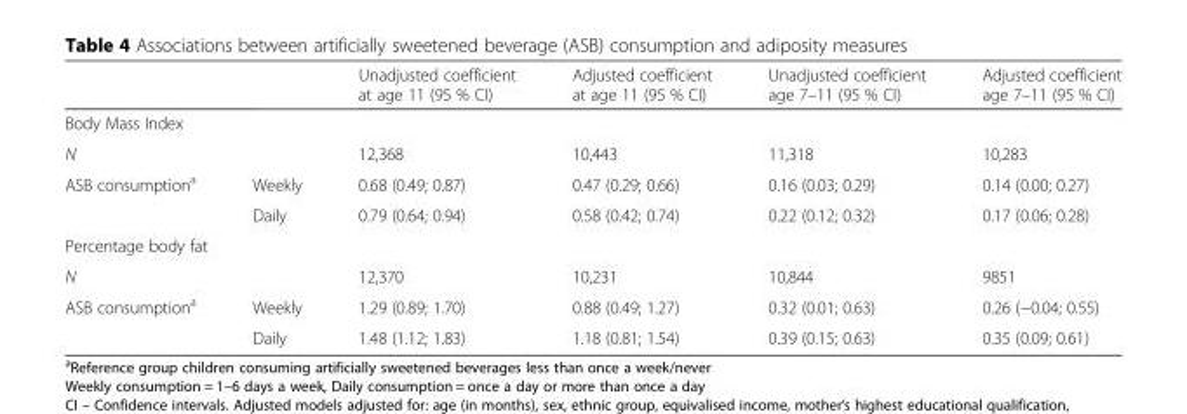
<table><thead><tr><td></td><td></td><td>Unadjusted coefficient at age 11 (95 % CI)</td><td>Adjusted coefficient at age 11 (95 % CI)</td><td>Unadjusted coefficient age 7–11 (95 % CI)</td><td>Adjusted coefficient age 7–11 (95 % CI)</td></tr></thead><tbody><tr><td colspan="6">Body Mass Index</td></tr><tr><td>N</td><td></td><td>12,368</td><td>10,443</td><td>11,318</td><td>10,283</td></tr><tr><td rowspan="2">ASB consumption<sup>a</sup></td><td>Weekly</td><td>0.68 (0.49; 0.87)</td><td>0.47 (0.29; 0.66)</td><td>0.16 (0.03; 0.29)</td><td>0.14 (0.00; 0.27)</td></tr><tr><td>Daily</td><td>0.79 (0.64; 0.94)</td><td>0.58 (0.42; 0.74)</td><td>0.22 (0.12; 0.32)</td><td>0.17 (0.06; 0.28)</td></tr><tr><td colspan="6">Percentage body fat</td></tr><tr><td>N</td><td></td><td>12,370</td><td>10,231</td><td>10,844</td><td>9851</td></tr><tr><td rowspan="2">ASB consumption<sup>a</sup></td><td>Weekly</td><td>1.29 (0.89; 1.70)</td><td>0.88 (0.49; 1.27)</td><td>0.32 (0.01; 0.63)</td><td>0.26 (−0.04; 0.55)</td></tr><tr><td>Daily</td><td>1.48 (1.12; 1.83)</td><td>1.18 (0.81; 1.54)</td><td>0.39 (0.15; 0.63)</td><td>0.35 (0.09; 0.61)</td></tr></tbody></table>